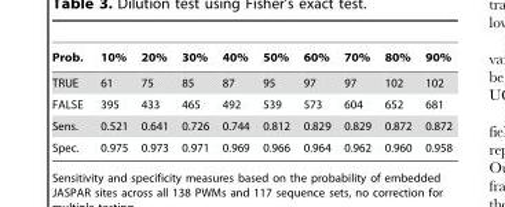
<table><thead><tr><td>Prob.</td><td>10%</td><td>20%</td><td>30%</td><td>40%</td><td>50%</td><td>60%</td><td>70%</td><td>80%</td><td>90%</td></tr></thead><tbody><tr><td>TRUE</td><td>61</td><td>75</td><td>85</td><td>87</td><td>95</td><td>97</td><td>97</td><td>102</td><td>102</td></tr><tr><td>FALSE</td><td>395</td><td>433</td><td>465</td><td>492</td><td>539</td><td>573</td><td>604</td><td>652</td><td>681</td></tr><tr><td>Sens.</td><td>0.521</td><td>0.641</td><td>0.726</td><td>0.744</td><td>0.812</td><td>0.829</td><td>0.829</td><td>0.872</td><td>0.872</td></tr><tr><td>Spec.</td><td>0.975</td><td>0.973</td><td>0.971</td><td>0.969</td><td>0.966</td><td>0.964</td><td>0.962</td><td>0.960</td><td>0.958</td></tr></tbody></table>